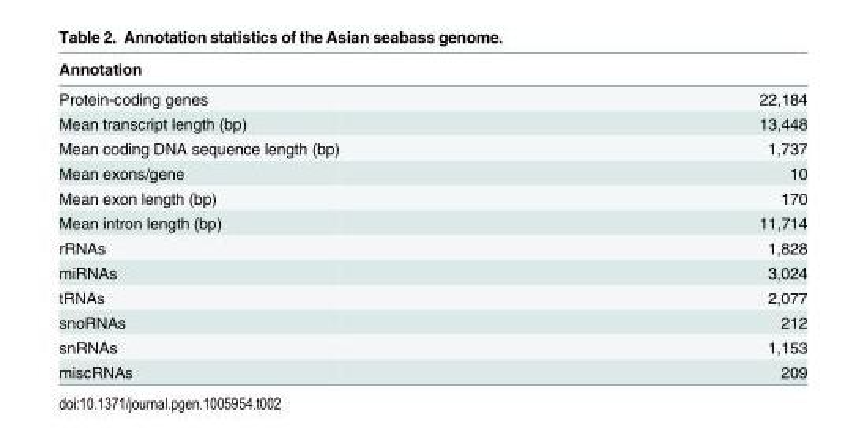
<table><thead><tr><td>Annotation</td><td></td></tr></thead><tbody><tr><td>Protein-coding genes</td><td>22,184</td></tr><tr><td>Mean transcript length (bp)</td><td>13,448</td></tr><tr><td>Mean coding DNA sequence length (bp)</td><td>1,737</td></tr><tr><td>Mean exons/gene</td><td>10</td></tr><tr><td>Mean exon length (bp)</td><td>170</td></tr><tr><td>Mean intron length (bp)</td><td>11,714</td></tr><tr><td>rRNAs</td><td>1,828</td></tr><tr><td>miRNAs</td><td>3,024</td></tr><tr><td>tRNAs</td><td>2,077</td></tr><tr><td>snoRNAs</td><td>212</td></tr><tr><td>snRNAs</td><td>1,153</td></tr><tr><td>miscRNAs</td><td>209</td></tr></tbody></table>